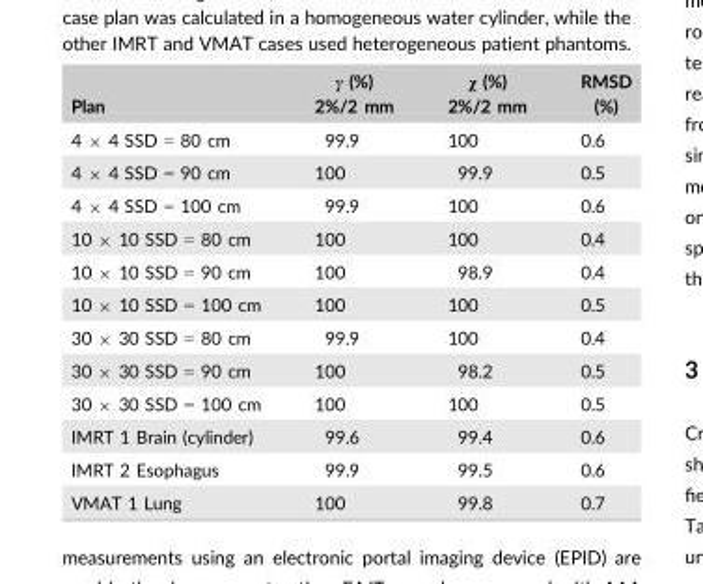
<table><thead><tr><td>Plan</td><td>γ (%) 2%/2 mm</td><td>χ (%) 2%/2 mm</td><td>RMSD (%)</td></tr></thead><tbody><tr><td>4 × 4 SSD = 80 cm</td><td>99.9</td><td>100</td><td>0.6</td></tr><tr><td>4 × 4 SSD = 90 cm</td><td>100</td><td>99.9</td><td>0.5</td></tr><tr><td>4 × 4 SSD = 100 cm</td><td>99.9</td><td>100</td><td>0.6</td></tr><tr><td>10 × 10 SSD = 80 cm</td><td>100</td><td>100</td><td>0.4</td></tr><tr><td>10 × 10 SSD = 90 cm</td><td>100</td><td>98.9</td><td>0.4</td></tr><tr><td>10 × 10 SSD = 100 cm</td><td>100</td><td>100</td><td>0.5</td></tr><tr><td>30 × 30 SSD = 80 cm</td><td>99.9</td><td>100</td><td>0.4</td></tr><tr><td>30 × 30 SSD = 90 cm</td><td>100</td><td>98.2</td><td>0.5</td></tr><tr><td>30 × 30 SSD = 100 cm</td><td>100</td><td>100</td><td>0.5</td></tr><tr><td>IMRT 1 Brain (cylinder)</td><td>99.6</td><td>99.4</td><td>0.6</td></tr><tr><td>IMRT 2 Esophagus</td><td>99.9</td><td>99.5</td><td>0.6</td></tr><tr><td>VMAT 1 Lung</td><td>100</td><td>99.8</td><td>0.7</td></tr></tbody></table>